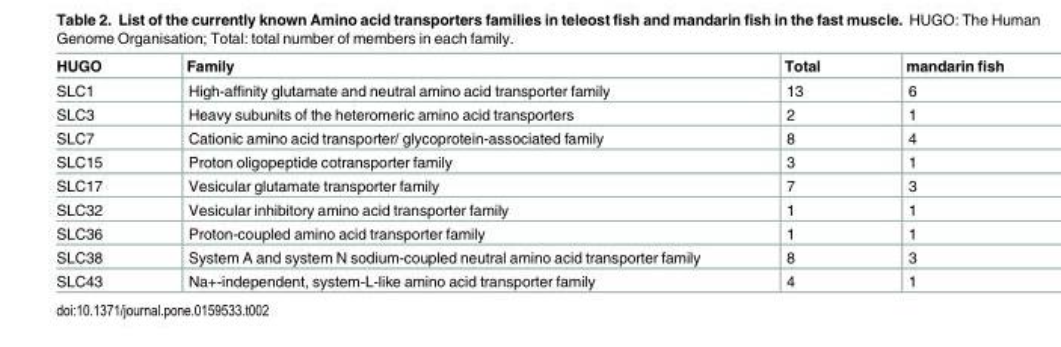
<table><thead><tr><td>HUGO</td><td>Family</td><td>Total</td><td>mandarin fish</td></tr></thead><tbody><tr><td>SLC1</td><td>High-affinity glutamate and neutral amino acid transporter family</td><td>13</td><td>6</td></tr><tr><td>SLC3</td><td>Heavy subunits of the heteromeric amino acid transporters</td><td>2</td><td>1</td></tr><tr><td>SLC7</td><td>Cationic amino acid transporter/ glycoprotein-associated family</td><td>8</td><td>4</td></tr><tr><td>SLC15</td><td>Proton oligopeptide cotransporter family</td><td>3</td><td>1</td></tr><tr><td>SLC17</td><td>Vesicular glutamate transporter family</td><td>7</td><td>3</td></tr><tr><td>SLC32</td><td>Vesicular inhibitory amino acid transporter family</td><td>1</td><td>1</td></tr><tr><td>SLC36</td><td>Proton-coupled amino acid transporter family</td><td>1</td><td>1</td></tr><tr><td>SLC38</td><td>System A and system N sodium-coupled neutral amino acid transporter family</td><td>8</td><td>3</td></tr><tr><td>SLC43</td><td>Na+-independent, system-L-like amino acid transporter family</td><td>4</td><td>1</td></tr></tbody></table>